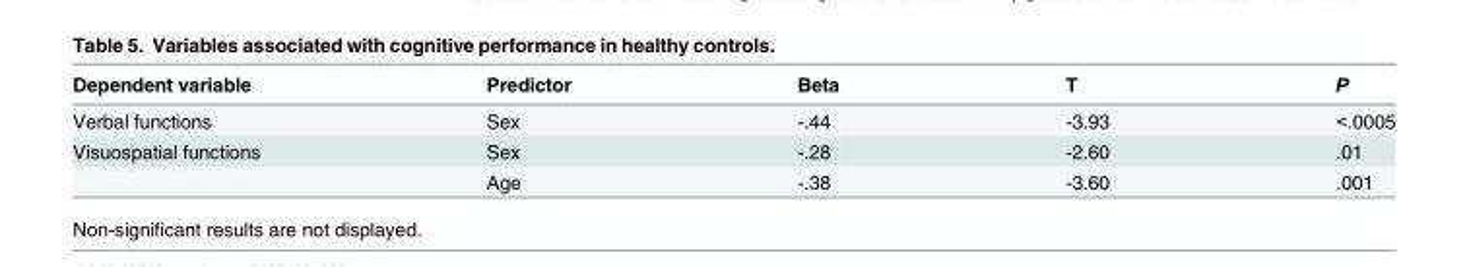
<table><thead><tr><td>Dependent variable</td><td>Predictor</td><td>Beta</td><td>T</td><td>P</td></tr></thead><tbody><tr><td>Verbal functions</td><td>Sex</td><td>-.44</td><td>-3.93</td><td>&lt;.0005</td></tr><tr><td rowspan="2">Visuospatial functions</td><td>Sex</td><td>-.28</td><td>-2.60</td><td>.01</td></tr><tr><td>Age</td><td>-.38</td><td>-3.60</td><td>.001</td></tr></tbody></table>